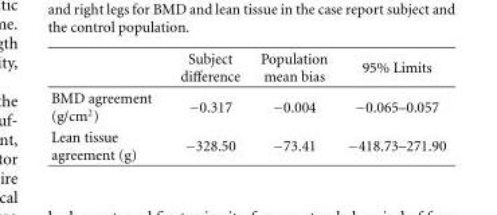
<table><thead><tr><td></td><td>Subject difference</td><td>Population mean bias</td><td>95% Limits</td></tr></thead><tbody><tr><td>BMD agreement (g/cm<sup>2</sup>)</td><td>−0.317</td><td>−0.004</td><td>−0.065–0.057</td></tr><tr><td>Lean tissue agreement (g)</td><td>−328.50</td><td>−73.41</td><td>−418.73–271.90</td></tr></tbody></table>